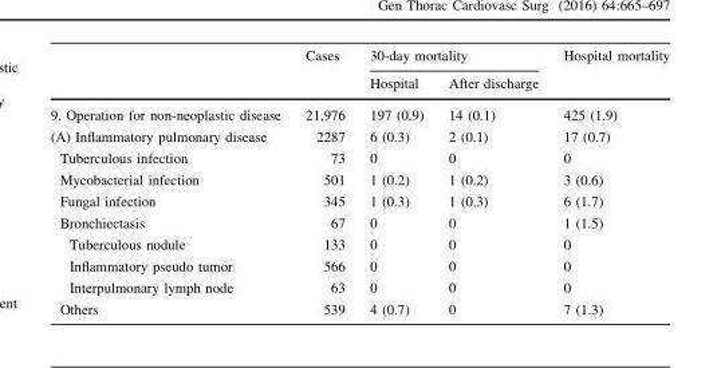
<table><thead><tr><td rowspan="2"></td><td rowspan="2">Cases</td><td colspan="2">30-day mortality</td><td rowspan="2">Hospital mortality</td></tr><tr><td>Hospital</td><td>After discharge</td></tr></thead><tbody><tr><td>9. Operation for non-neoplastic disease</td><td>21,976</td><td>197 (0.9)</td><td>14 (0.1)</td><td>425 (1.9)</td></tr><tr><td>(A) Inflammatory pulmonary disease</td><td>2287</td><td>6 (0.3)</td><td>2 (0.1)</td><td>17 (0.7)</td></tr><tr><td>Tuberculous infection</td><td>73</td><td>0</td><td>0</td><td>0</td></tr><tr><td>Mycobacterial infection</td><td>501</td><td>1 (0.2)</td><td>1 (0.2)</td><td>3 (0.6)</td></tr><tr><td>Fungal infection</td><td>345</td><td>1 (0.3)</td><td>1 (0.3)</td><td>6 (1.7)</td></tr><tr><td>Bronchiectasis</td><td>67</td><td>0</td><td>0</td><td>1 (1.5)</td></tr><tr><td>Tuberculous nodule</td><td>133</td><td>0</td><td>0</td><td>0</td></tr><tr><td>Inflammatory pseudo tumor</td><td>566</td><td>0</td><td>0</td><td>0</td></tr><tr><td>Interpulmonary lymph node</td><td>63</td><td>0</td><td>0</td><td>0</td></tr><tr><td>Others</td><td>539</td><td>4 (0.7)</td><td>0</td><td>7 (1.3)</td></tr></tbody></table>